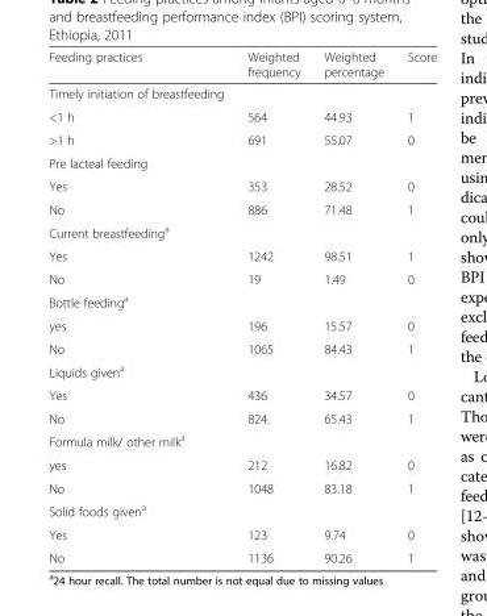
<table><thead><tr><td>Feeding practices</td><td>Weighted frequency</td><td>Weighted percentage</td><td>Score</td></tr></thead><tbody><tr><td colspan="4">Timely initiation of breastfeeding</td></tr><tr><td>&lt;1 h</td><td>564</td><td>44.93</td><td>1</td></tr><tr><td>&gt;1 h</td><td>691</td><td>55.07</td><td>0</td></tr><tr><td colspan="4">Pre lacteal feeding</td></tr><tr><td>Yes</td><td>353</td><td>28.52</td><td>0</td></tr><tr><td>No</td><td>886</td><td>71.48</td><td>1</td></tr><tr><td colspan="4">Current breastfeeding<sup>a</sup></td></tr><tr><td>Yes</td><td>1242</td><td>98.51</td><td>1</td></tr><tr><td>No</td><td>19</td><td>1.49</td><td>0</td></tr><tr><td colspan="4">Bottle feeding<sup>a</sup></td></tr><tr><td>yes</td><td>196</td><td>15.57</td><td>0</td></tr><tr><td>No</td><td>1065</td><td>84.43</td><td>1</td></tr><tr><td colspan="4">Liquids given<sup>a</sup></td></tr><tr><td>Yes</td><td>436</td><td>34.57</td><td>0</td></tr><tr><td>No</td><td>824.</td><td>65.43</td><td>1</td></tr><tr><td colspan="4">Formula milk/ other milk<sup>a</sup></td></tr><tr><td>yes</td><td>212</td><td>16.82</td><td>0</td></tr><tr><td>No</td><td>1048</td><td>83.18</td><td>1</td></tr><tr><td colspan="4">Solid foods given<sup>a</sup></td></tr><tr><td>Yes</td><td>123</td><td>9.74</td><td>0</td></tr><tr><td>No</td><td>1136</td><td>90.26</td><td>1</td></tr></tbody></table>